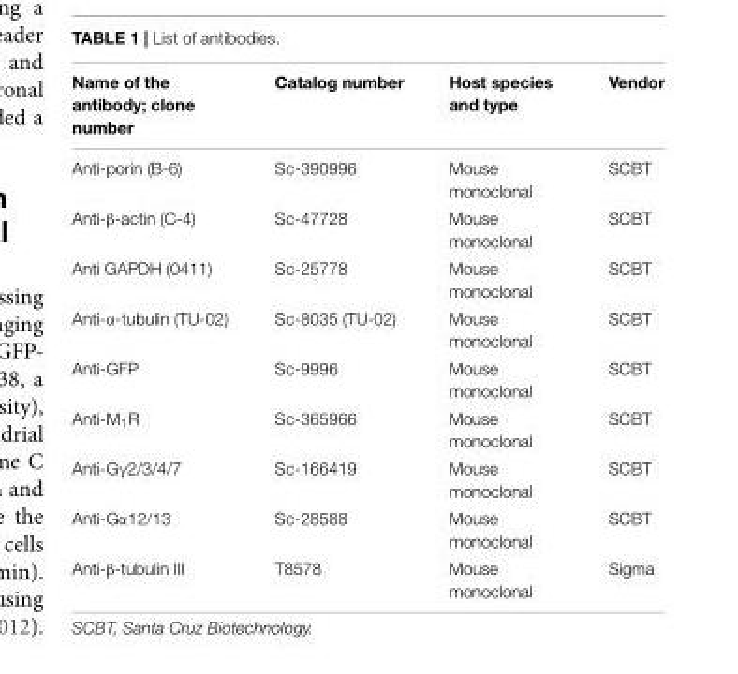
<table><thead><tr><td>Name of the antibody; clone number</td><td>Catalog number</td><td>Host species and type</td><td>Vendor</td></tr></thead><tbody><tr><td>Anti-porin (B-6)</td><td>Sc-390996</td><td>Mouse monoclonal</td><td>SCBT</td></tr><tr><td>Anti-β-actin (C-4)</td><td>Sc-47728</td><td>Mouse monoclonal</td><td>SCBT</td></tr><tr><td>Anti GAPDH (0411)</td><td>Sc-25778</td><td>Mouse monoclonal</td><td>SCBT</td></tr><tr><td>Anti-α-tubulin (TU-02)</td><td>Sc-8035 (TU-02)</td><td>Mouse monoclonal</td><td>SCBT</td></tr><tr><td>Anti-GFP</td><td>Sc-9996</td><td>Mouse monoclonal</td><td>SCBT</td></tr><tr><td>Anti-M<sub>1</sub>R</td><td>Sc-365966</td><td>Mouse monoclonal</td><td>SCBT</td></tr><tr><td>Anti-Gγ2/3/4/7</td><td>Sc-166419</td><td>Mouse monoclonal</td><td>SCBT</td></tr><tr><td>Anti-Gα12/13</td><td>Sc-28588</td><td>Mouse monoclonal</td><td>SCBT</td></tr><tr><td>Anti-β-tubulin III</td><td>T8578</td><td>Mouse monoclonal</td><td>Sigma</td></tr></tbody></table>